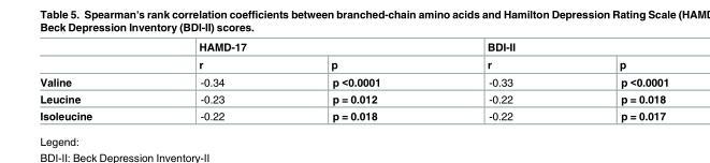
<table><thead><tr><td rowspan="2"></td><td colspan="2">HAMD-17</td><td colspan="2">BDI-II</td></tr><tr><td>r</td><td>p</td><td>r</td><td>p</td></tr></thead><tbody><tr><td>Valine</td><td>-0.34</td><td>p &lt;0.0001</td><td>-0.33</td><td>p &lt;0.0001</td></tr><tr><td>Leucine</td><td>-0.23</td><td>p = 0.012</td><td>-0.22</td><td>p = 0.018</td></tr><tr><td>Isoleucine</td><td>-0.22</td><td>p = 0.018</td><td>-0.22</td><td>p = 0.017</td></tr></tbody></table>